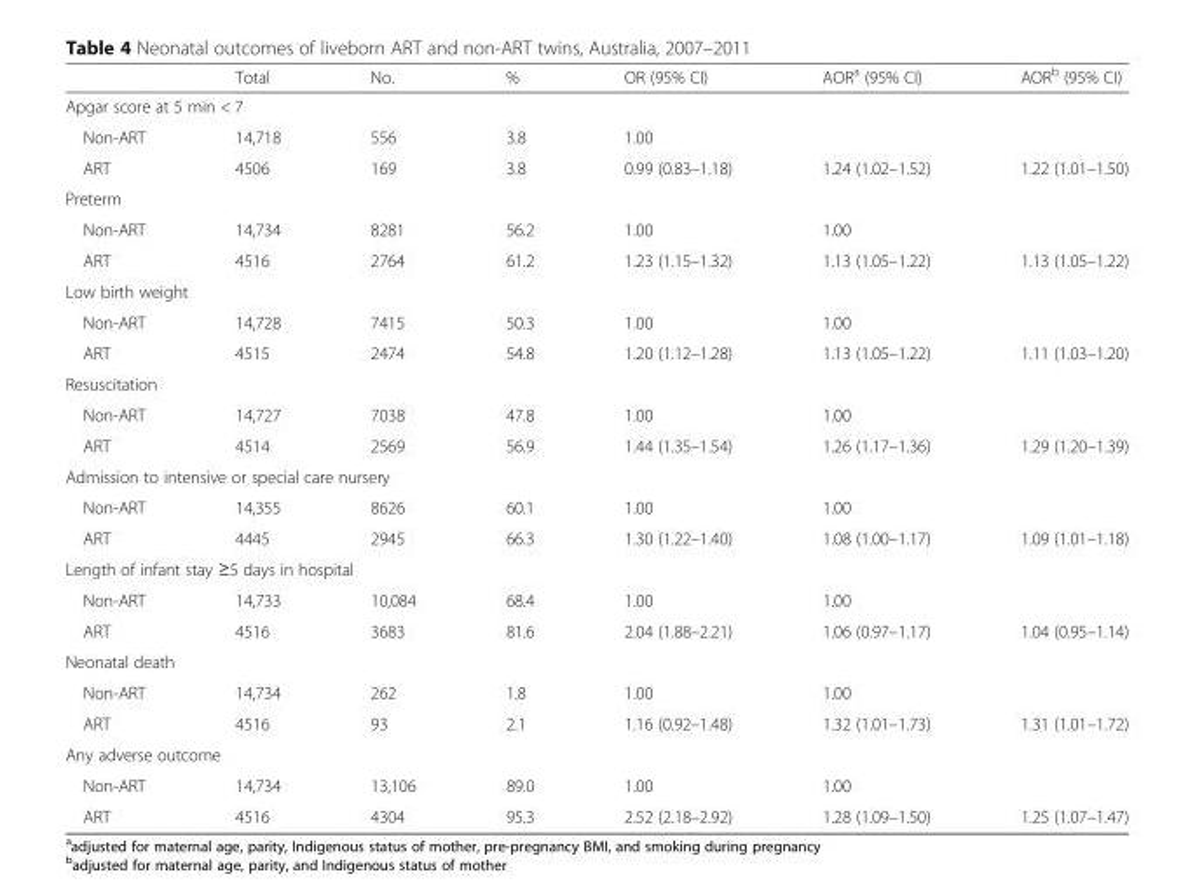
<table><thead><tr><td></td><td>Total</td><td>No.</td><td>%</td><td>OR (95% CI)</td><td>AOR<sup>a</sup> (95% CI)</td><td>AOR<sup>b</sup> (95% CI)</td></tr></thead><tbody><tr><td colspan="7">Apgar score at 5 min &lt; 7</td></tr><tr><td>Non-ART</td><td>14,718</td><td>556</td><td>3.8</td><td>1.00</td><td></td><td></td></tr><tr><td>ART</td><td>4506</td><td>169</td><td>3.8</td><td>0.99 (0.83–1.18)</td><td>1.24 (1.02–1.52)</td><td>1.22 (1.01–1.50)</td></tr><tr><td colspan="7">Preterm</td></tr><tr><td>Non-ART</td><td>14,734</td><td>8281</td><td>56.2</td><td>1.00</td><td>1.00</td><td></td></tr><tr><td>ART</td><td>4516</td><td>2764</td><td>61.2</td><td>1.23 (1.15–1.32)</td><td>1.13 (1.05–1.22)</td><td>1.13 (1.05–1.22)</td></tr><tr><td colspan="7">Low birth weight</td></tr><tr><td>Non-ART</td><td>14,728</td><td>7415</td><td>50.3</td><td>1.00</td><td>1.00</td><td></td></tr><tr><td>ART</td><td>4515</td><td>2474</td><td>54.8</td><td>1.20 (1.12–1.28)</td><td>1.13 (1.05–1.22)</td><td>1.11 (1.03–1.20)</td></tr><tr><td colspan="7">Resuscitation</td></tr><tr><td>Non-ART</td><td>14,727</td><td>7038</td><td>47.8</td><td>1.00</td><td>1.00</td><td></td></tr><tr><td>ART</td><td>4514</td><td>2569</td><td>56.9</td><td>1.44 (1.35–1.54)</td><td>1.26 (1.17–1.36)</td><td>1.29 (1.20–1.39)</td></tr><tr><td colspan="7">Admission to intensive or special care nursery</td></tr><tr><td>Non-ART</td><td>14,355</td><td>8626</td><td>60.1</td><td>1.00</td><td>1.00</td><td></td></tr><tr><td>ART</td><td>4445</td><td>2945</td><td>66.3</td><td>1.30 (1.22–1.40)</td><td>1.08 (1.00–1.17)</td><td>1.09 (1.01–1.18)</td></tr><tr><td colspan="7">Length of infant stay ≥5 days in hospital</td></tr><tr><td>Non-ART</td><td>14,733</td><td>10,084</td><td>68.4</td><td>1.00</td><td>1.00</td><td></td></tr><tr><td>ART</td><td>4516</td><td>3683</td><td>81.6</td><td>2.04 (1.88–2.21)</td><td>1.06 (0.97–1.17)</td><td>1.04 (0.95–1.14)</td></tr><tr><td colspan="7">Neonatal death</td></tr><tr><td>Non-ART</td><td>14,734</td><td>262</td><td>1.8</td><td>1.00</td><td>1.00</td><td></td></tr><tr><td>ART</td><td>4516</td><td>93</td><td>2.1</td><td>1.16 (0.92–1.48)</td><td>1.32 (1.01–1.73)</td><td>1.31 (1.01–1.72)</td></tr><tr><td colspan="7">Any adverse outcome</td></tr><tr><td>Non-ART</td><td>14,734</td><td>13,106</td><td>89.0</td><td>1.00</td><td>1.00</td><td></td></tr><tr><td>ART</td><td>4516</td><td>4304</td><td>95.3</td><td>2.52 (2.18–2.92)</td><td>1.28 (1.09–1.50)</td><td>1.25 (1.07–1.47)</td></tr></tbody></table>